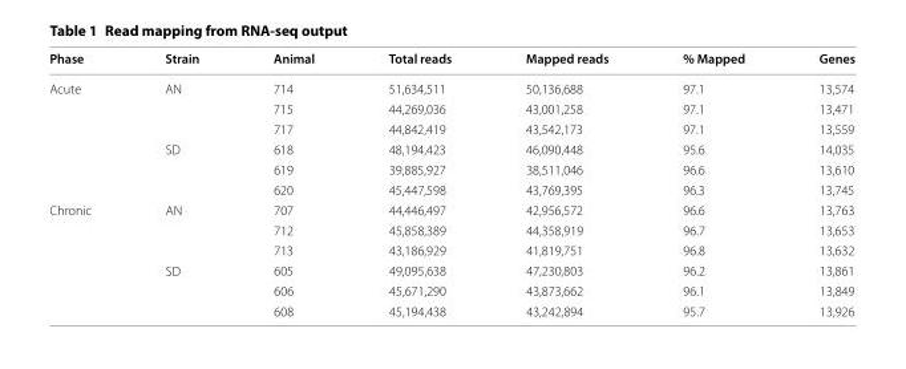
<table><thead><tr><td>Phase</td><td>Strain</td><td>Animal</td><td>Total reads</td><td>Mapped reads</td><td>% Mapped</td><td>Genes</td></tr></thead><tbody><tr><td rowspan="6">Acute</td><td rowspan="3">AN</td><td>714</td><td>51,634,511</td><td>50,136,688</td><td>97.1</td><td>13,574</td></tr><tr><td>715</td><td>44,269,036</td><td>43,001,258</td><td>97.1</td><td>13,471</td></tr><tr><td>717</td><td>44,842,419</td><td>43,542,173</td><td>97.1</td><td>13,559</td></tr><tr><td rowspan="3">SD</td><td>618</td><td>48,194,423</td><td>46,090,448</td><td>95.6</td><td>14,035</td></tr><tr><td>619</td><td>39,885,927</td><td>38,511,046</td><td>96.6</td><td>13,610</td></tr><tr><td>620</td><td>45,447,598</td><td>43,769,395</td><td>96.3</td><td>13,745</td></tr><tr><td rowspan="6">Chronic</td><td rowspan="3">AN</td><td>707</td><td>44,446,497</td><td>42,956,572</td><td>96.6</td><td>13,763</td></tr><tr><td>712</td><td>45,858,389</td><td>44,358,919</td><td>96.7</td><td>13,653</td></tr><tr><td>713</td><td>43,186,929</td><td>41,819,751</td><td>96.8</td><td>13,632</td></tr><tr><td rowspan="3">SD</td><td>605</td><td>49,095,638</td><td>47,230,803</td><td>96.2</td><td>13,861</td></tr><tr><td>606</td><td>45,671,290</td><td>43,873,662</td><td>96.1</td><td>13,849</td></tr><tr><td>608</td><td>45,194,438</td><td>43,242,894</td><td>95.7</td><td>13,926</td></tr></tbody></table>